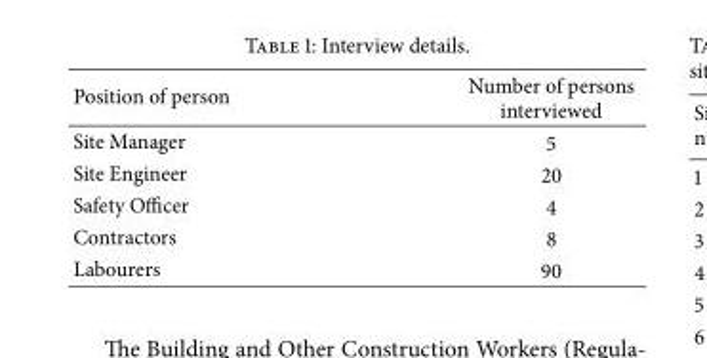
<table><thead><tr><td>Position of person</td><td>Number of persons interviewed</td></tr></thead><tbody><tr><td>Site Manager</td><td>5</td></tr><tr><td>Site Engineer</td><td>20</td></tr><tr><td>Safety Officer</td><td>4</td></tr><tr><td>Contractors</td><td>8</td></tr><tr><td>Labourers</td><td>90</td></tr></tbody></table>